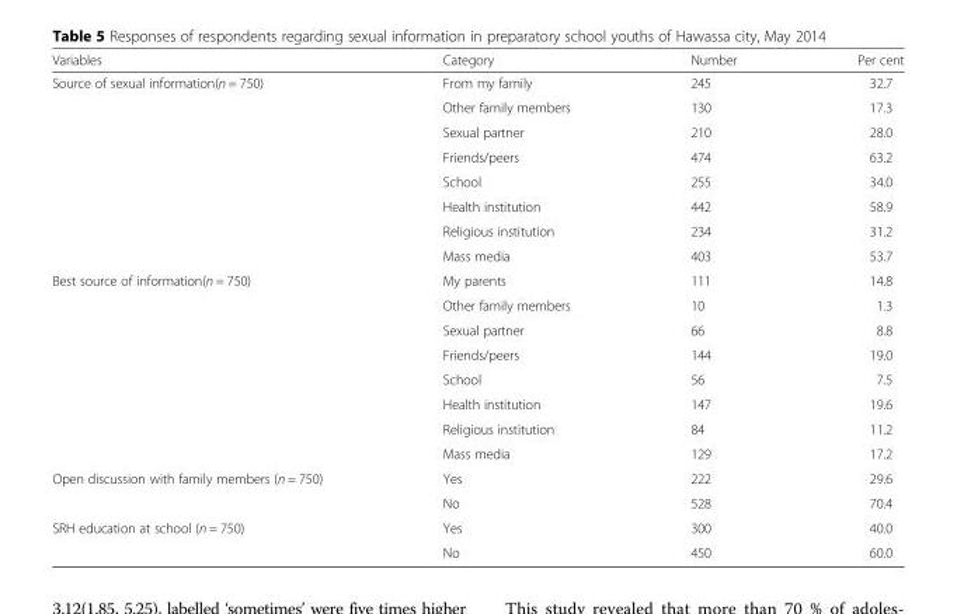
<table><thead><tr><td>Variables</td><td>Category</td><td>Number</td><td>Per cent</td></tr></thead><tbody><tr><td rowspan="8">Source of sexual information(n = 750)</td><td>From my family</td><td>245</td><td>32.7</td></tr><tr><td>Other family members</td><td>130</td><td>17.3</td></tr><tr><td>Sexual partner</td><td>210</td><td>28.0</td></tr><tr><td>Friends/peers</td><td>474</td><td>63.2</td></tr><tr><td>School</td><td>255</td><td>34.0</td></tr><tr><td>Health institution</td><td>442</td><td>58.9</td></tr><tr><td>Religious institution</td><td>234</td><td>31.2</td></tr><tr><td>Mass media</td><td>403</td><td>53.7</td></tr><tr><td rowspan="8">Best source of information(n = 750)</td><td>My parents</td><td>111</td><td>14.8</td></tr><tr><td>Other family members</td><td>10</td><td>1.3</td></tr><tr><td>Sexual partner</td><td>66</td><td>8.8</td></tr><tr><td>Friends/peers</td><td>144</td><td>19.0</td></tr><tr><td>School</td><td>56</td><td>7.5</td></tr><tr><td>Health institution</td><td>147</td><td>19.6</td></tr><tr><td>Religious institution</td><td>84</td><td>11.2</td></tr><tr><td>Mass media</td><td>129</td><td>17.2</td></tr><tr><td rowspan="2">Open discussion with family members (n = 750)</td><td>Yes</td><td>222</td><td>29.6</td></tr><tr><td>No</td><td>528</td><td>70.4</td></tr><tr><td rowspan="2">SRH education at school (n = 750)</td><td>Yes</td><td>300</td><td>40.0</td></tr><tr><td>No</td><td>450</td><td>60.0</td></tr></tbody></table>